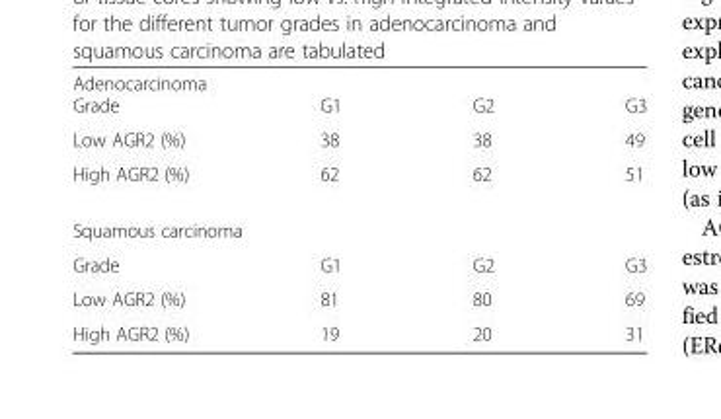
<table><tbody><tr><td colspan="4">Adenocarcinoma</td></tr><tr><td>Grade</td><td>G1</td><td>G2</td><td>G3</td></tr><tr><td>Low AGR2 (%)</td><td>38</td><td>38</td><td>49</td></tr><tr><td>High AGR2 (%)</td><td>62</td><td>62</td><td>51</td></tr><tr><td colspan="4">Squamous carcinoma</td></tr><tr><td>Grade</td><td>G1</td><td>G2</td><td>G3</td></tr><tr><td>Low AGR2 (%)</td><td>81</td><td>80</td><td>69</td></tr><tr><td>High AGR2 (%)</td><td>19</td><td>20</td><td>31</td></tr></tbody></table>